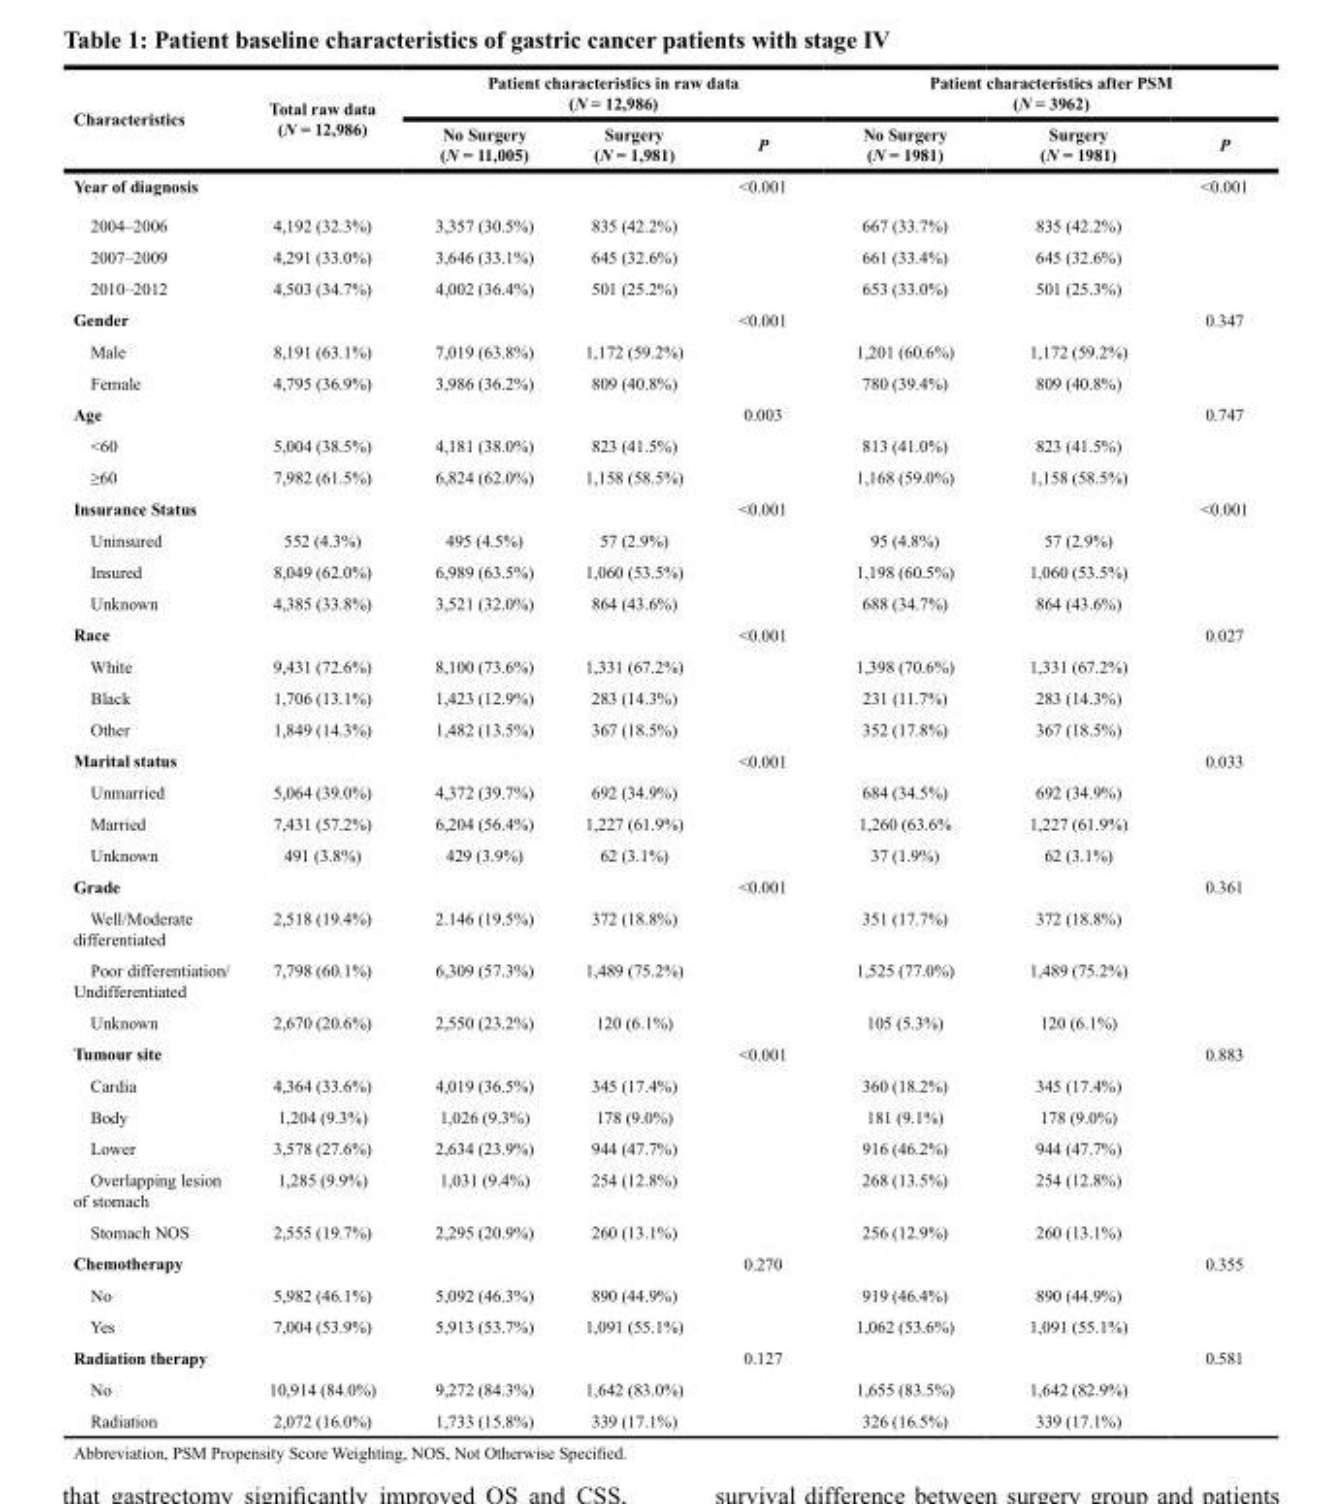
<table><thead><tr><td rowspan="2">Characteristics</td><td rowspan="2">Total raw data (N = 12,986)</td><td colspan="3">Patient characteristics in raw data (N = 12,986)</td><td colspan="3">Patient characteristics after PSM (N = 3962)</td></tr><tr><td>No Surgery (N = 11,005)</td><td>Surgery (N = 1,981)</td><td>P</td><td>No Surgery (N = 1981)</td><td>Surgery (N = 1981)</td><td>P</td></tr></thead><tbody><tr><td>Year of diagnosis</td><td></td><td></td><td></td><td>&lt;0.001</td><td></td><td></td><td>&lt;0.001</td></tr><tr><td>2004–2006</td><td>4,192 (32.3%)</td><td>3,357 (30.5%)</td><td>835 (42.2%)</td><td></td><td>667 (33.7%)</td><td>835 (42.2%)</td><td></td></tr><tr><td>2007–2009</td><td>4,291 (33.0%)</td><td>3,646 (33.1%)</td><td>645 (32.6%)</td><td></td><td>661 (33.4%)</td><td>645 (32.6%)</td><td></td></tr><tr><td>2010–2012</td><td>4,503 (34.7%)</td><td>4,002 (36.4%)</td><td>501 (25.2%)</td><td></td><td>653 (33.0%)</td><td>501 (25.3%)</td><td></td></tr><tr><td>Gender</td><td></td><td></td><td></td><td>&lt;0.001</td><td></td><td></td><td>0.347</td></tr><tr><td>Male</td><td>8,191 (63.1%)</td><td>7,019 (63.8%)</td><td>1,172 (59.2%)</td><td></td><td>1,201 (60.6%)</td><td>1,172 (59.2%)</td><td></td></tr><tr><td>Female</td><td>4,795 (36.9%)</td><td>3,986 (36.2%)</td><td>809 (40.8%)</td><td></td><td>780 (39.4%)</td><td>809 (40.8%)</td><td></td></tr><tr><td>Age</td><td></td><td></td><td></td><td>0.003</td><td></td><td></td><td>0.747</td></tr><tr><td>&lt;60</td><td>5,004 (38.5%)</td><td>4,181 (38.0%)</td><td>823 (41.5%)</td><td></td><td>813 (41.0%)</td><td>823 (41.5%)</td><td></td></tr><tr><td>≥60</td><td>7,982 (61.5%)</td><td>6,824 (62.0%)</td><td>1,158 (58.5%)</td><td></td><td>1,168 (59.0%)</td><td>1,158 (58.5%)</td><td></td></tr><tr><td>Insurance Status</td><td></td><td></td><td></td><td>&lt;0.001</td><td></td><td></td><td>&lt;0.001</td></tr><tr><td>Uninsured</td><td>552 (4.3%)</td><td>495 (4.5%)</td><td>57 (2.9%)</td><td></td><td>95 (4.8%)</td><td>57 (2.9%)</td><td></td></tr><tr><td>Insured</td><td>8,049 (62.0%)</td><td>6,989 (63.5%)</td><td>1,060 (53.5%)</td><td></td><td>1,198 (60.5%)</td><td>1,060 (53.5%)</td><td></td></tr><tr><td>Unknown</td><td>4,385 (33.8%)</td><td>3,521 (32.0%)</td><td>864 (43.6%)</td><td></td><td>688 (34.7%)</td><td>864 (43.6%)</td><td></td></tr><tr><td>Race</td><td></td><td></td><td></td><td>&lt;0.001</td><td></td><td></td><td>0.027</td></tr><tr><td>White</td><td>9,431 (72.6%)</td><td>8,100 (73.6%)</td><td>1,331 (67.2%)</td><td></td><td>1,398 (70.6%)</td><td>1,331 (67.2%)</td><td></td></tr><tr><td>Black</td><td>1,706 (13.1%)</td><td>1,423 (12.9%)</td><td>283 (14.3%)</td><td></td><td>231 (11.7%)</td><td>283 (14.3%)</td><td></td></tr><tr><td>Other</td><td>1,849 (14.3%)</td><td>1,482 (13.5%)</td><td>367 (18.5%)</td><td></td><td>352 (17.8%)</td><td>367 (18.5%)</td><td></td></tr><tr><td>Marital status</td><td></td><td></td><td></td><td>&lt;0.001</td><td></td><td></td><td>0.033</td></tr><tr><td>Unmarried</td><td>5,064 (39.0%)</td><td>4,372 (39.7%)</td><td>692 (34.9%)</td><td></td><td>684 (34.5%)</td><td>692 (34.9%)</td><td></td></tr><tr><td>Married</td><td>7,431 (57.2%)</td><td>6,204 (56.4%)</td><td>1,227 (61.9%)</td><td></td><td>1,260 (63.6%</td><td>1,227 (61.9%)</td><td></td></tr><tr><td>Unknown</td><td>491 (3.8%)</td><td>429 (3.9%)</td><td>62 (3.1%)</td><td></td><td>37 (1.9%)</td><td>62 (3.1%)</td><td></td></tr><tr><td>Grade</td><td></td><td></td><td></td><td>&lt;0.001</td><td></td><td></td><td>0.361</td></tr><tr><td>Well/Moderate differentiated</td><td>2,518 (19.4%)</td><td>2.146 (19.5%)</td><td>372 (18.8%)</td><td></td><td>351 (17.7%)</td><td>372 (18.8%)</td><td></td></tr><tr><td>Poor differentiation/ Undifferentiated</td><td>7,798 (60.1%)</td><td>6,309 (57.3%)</td><td>1,489 (75.2%)</td><td></td><td>1,525 (77.0%)</td><td>1,489 (75.2%)</td><td></td></tr><tr><td>Unknown</td><td>2,670 (20.6%)</td><td>2,550 (23.2%)</td><td>120 (6.1%)</td><td></td><td>105 (5.3%)</td><td>120 (6.1%)</td><td></td></tr><tr><td>Tumour site</td><td></td><td></td><td></td><td>&lt;0.001</td><td></td><td></td><td>0.883</td></tr><tr><td>Cardia</td><td>4,364 (33.6%)</td><td>4,019 (36.5%)</td><td>345 (17.4%)</td><td></td><td>360 (18.2%)</td><td>345 (17.4%)</td><td></td></tr><tr><td>Body</td><td>1,204 (9.3%)</td><td>1,026 (9.3%)</td><td>178 (9.0%)</td><td></td><td>181 (9.1%)</td><td>178 (9.0%)</td><td></td></tr><tr><td>Lower</td><td>3,578 (27.6%)</td><td>2,634 (23.9%)</td><td>944 (47.7%)</td><td></td><td>916 (46.2%)</td><td>944 (47.7%)</td><td></td></tr><tr><td>Overlapping lesion of stomach</td><td>1,285 (9.9%)</td><td>1,031 (9.4%)</td><td>254 (12.8%)</td><td></td><td>268 (13.5%)</td><td>254 (12.8%)</td><td></td></tr><tr><td>Stomach NOS</td><td>2,555 (19.7%)</td><td>2,295 (20.9%)</td><td>260 (13.1%)</td><td></td><td>256 (12.9%)</td><td>260 (13.1%)</td><td></td></tr><tr><td>Chemotherapy</td><td></td><td></td><td></td><td>0.270</td><td></td><td></td><td>0.355</td></tr><tr><td>No</td><td>5,982 (46.1%)</td><td>5,092 (46.3%)</td><td>890 (44.9%)</td><td></td><td>919 (46.4%)</td><td>890 (44.9%)</td><td></td></tr><tr><td>Yes</td><td>7,004 (53.9%)</td><td>5,913 (53.7%)</td><td>1,091 (55.1%)</td><td></td><td>1,062 (53.6%)</td><td>1,091 (55.1%)</td><td></td></tr><tr><td>Radiation therapy</td><td></td><td></td><td></td><td>0.127</td><td></td><td></td><td>0.581</td></tr><tr><td>No</td><td>10,914 (84.0%)</td><td>9,272 (84.3%)</td><td>1,642 (83.0%)</td><td></td><td>1,655 (83.5%)</td><td>1,642 (82.9%)</td><td></td></tr><tr><td>Radiation</td><td>2,072 (16.0%)</td><td>1,733 (15.8%)</td><td>339 (17.1%)</td><td></td><td>326 (16.5%)</td><td>339 (17.1%)</td><td></td></tr></tbody></table>